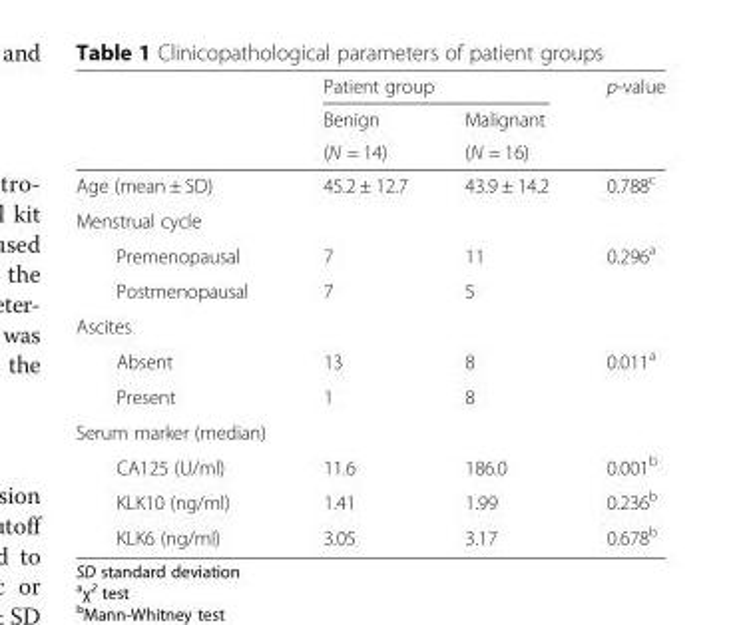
<table><thead><tr><td rowspan="3"></td><td colspan="2">Patient group</td><td rowspan="3">p-value</td></tr><tr><td rowspan="2">Benign (N = 14)</td><td rowspan="2">Malignant (N = 16)</td></tr><tr></tr></thead><tbody><tr><td>Age (mean ± SD)</td><td>45.2 ± 12.7</td><td>43.9 ± 14.2</td><td>0.788<sup>c</sup></td></tr><tr><td colspan="4">Menstrual cycle</td></tr><tr><td>Premenopausal</td><td>7</td><td>11</td><td>0.296<sup>a</sup></td></tr><tr><td>Postmenopausal</td><td>7</td><td>5</td><td></td></tr><tr><td colspan="4">Ascites</td></tr><tr><td>Absent</td><td>13</td><td>8</td><td>0.011<sup>a</sup></td></tr><tr><td>Present</td><td>1</td><td>8</td><td></td></tr><tr><td colspan="4">Serum marker (median)</td></tr><tr><td>CA125 (U/ml)</td><td>11.6</td><td>186.0</td><td>0.001<sup>b</sup></td></tr><tr><td>KLK10 (ng/ml)</td><td>1.41</td><td>1.99</td><td>0.236<sup>b</sup></td></tr><tr><td>KLK6 (ng/ml)</td><td>3.05</td><td>3.17</td><td>0.678<sup>b</sup></td></tr></tbody></table>